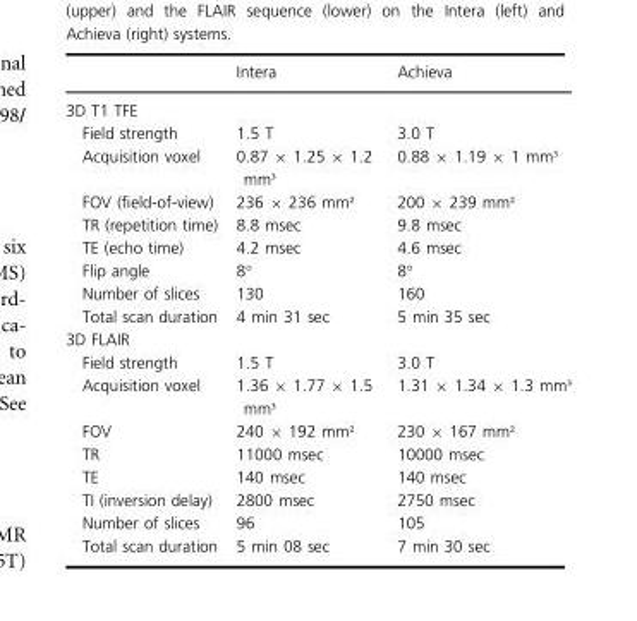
<table><thead><tr><td></td><td>Intera</td><td>Achieva</td></tr></thead><tbody><tr><td colspan="3">3D T1 TFE</td></tr><tr><td>Field strength</td><td>1.5 T</td><td>3.0 T</td></tr><tr><td>Acquisition voxel</td><td>0.87 × 1.25 × 1.2 mm³</td><td>0.88 × 1.19 × 1 mm³</td></tr><tr><td>FOV (field-of-view)</td><td>236 × 236 mm²</td><td>200 × 239 mm²</td></tr><tr><td>TR (repetition time)</td><td>8.8 msec</td><td>9.8 msec</td></tr><tr><td>TE (echo time)</td><td>4.2 msec</td><td>4.6 msec</td></tr><tr><td>Flip angle</td><td>8°</td><td>8°</td></tr><tr><td>Number of slices</td><td>130</td><td>160</td></tr><tr><td>Total scan duration</td><td>4 min 31 sec</td><td>5 min 35 sec</td></tr><tr><td colspan="3">3D FLAIR</td></tr><tr><td>Field strength</td><td>1.5 T</td><td>3.0 T</td></tr><tr><td>Acquisition voxel</td><td>1.36 × 1.77 × 1.5 mm³</td><td>1.31 × 1.34 × 1.3 mm³</td></tr><tr><td>FOV</td><td>240 × 192 mm²</td><td>230 × 167 mm²</td></tr><tr><td>TR</td><td>11000 msec</td><td>10000 msec</td></tr><tr><td>TE</td><td>140 msec</td><td>140 msec</td></tr><tr><td>TI (inversion delay)</td><td>2800 msec</td><td>2750 msec</td></tr><tr><td>Number of slices</td><td>96</td><td>105</td></tr><tr><td>Total scan duration</td><td>5 min 08 sec</td><td>7 min 30 sec</td></tr></tbody></table>